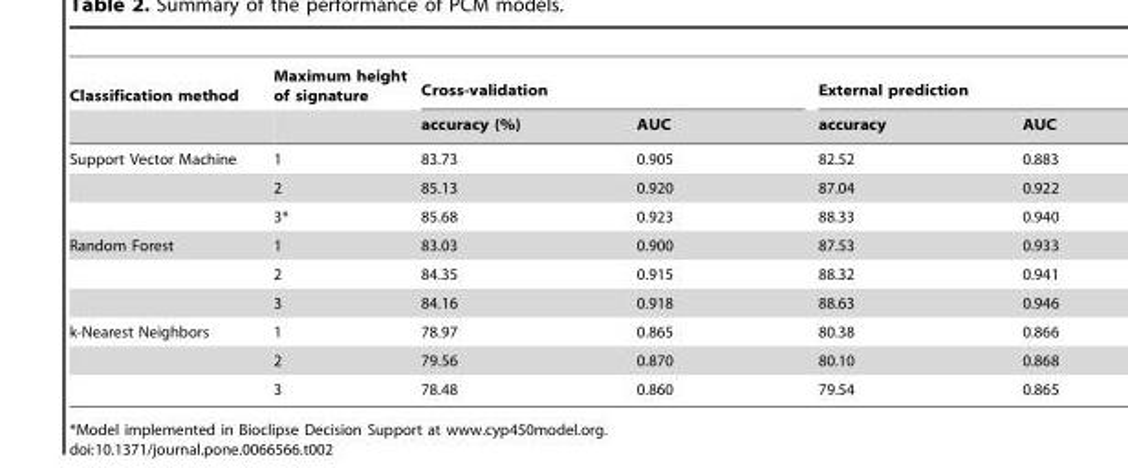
<table><thead><tr><td rowspan="2">Classification method</td><td rowspan="2">Maximum height of signature</td><td colspan="2">Cross-validation</td><td colspan="2">External prediction</td></tr><tr><td>accuracy (%)</td><td>AUC</td><td>accuracy</td><td>AUC</td></tr></thead><tbody><tr><td rowspan="3">Support Vector Machine</td><td>1</td><td>83.73</td><td>0.905</td><td>82.52</td><td>0.883</td></tr><tr><td>2</td><td>85.13</td><td>0.920</td><td>87.04</td><td>0.922</td></tr><tr><td>3*</td><td>85.68</td><td>0.923</td><td>88.33</td><td>0.940</td></tr><tr><td rowspan="3">Random Forest</td><td>1</td><td>83.03</td><td>0.900</td><td>87.53</td><td>0.933</td></tr><tr><td>2</td><td>84.35</td><td>0.915</td><td>88.32</td><td>0.941</td></tr><tr><td>3</td><td>84.16</td><td>0.918</td><td>88.63</td><td>0.946</td></tr><tr><td rowspan="3">k-Nearest Neighbors</td><td>1</td><td>78.97</td><td>0.865</td><td>80.38</td><td>0.866</td></tr><tr><td>2</td><td>79.56</td><td>0.870</td><td>80.10</td><td>0.868</td></tr><tr><td>3</td><td>78.48</td><td>0.860</td><td>79.54</td><td>0.865</td></tr></tbody></table>